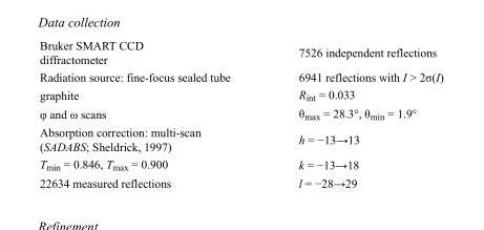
<table><tbody><tr><td>Bruker SMART CCD diffractometer</td><td>7526 independent reflections</td></tr><tr><td>Radiation source: fine-focus sealed tube</td><td>6941 reflections with I &gt; 2σ(I)</td></tr><tr><td>graphite</td><td>R<sub>int</sub> = 0.033</td></tr><tr><td>φ and ω scans</td><td>θ<sub>max</sub> = 28.3°, θ<sub>min</sub> = 1.9°</td></tr><tr><td>Absorption correction: multi-scan (SADABS; Sheldrick, 1997)</td><td>h = −13→13</td></tr><tr><td>T<sub>min</sub> = 0.846, T<sub>max</sub> = 0.900</td><td>k = −13→18</td></tr><tr><td>22634 measured reflections</td><td>l = −28→29</td></tr></tbody></table>